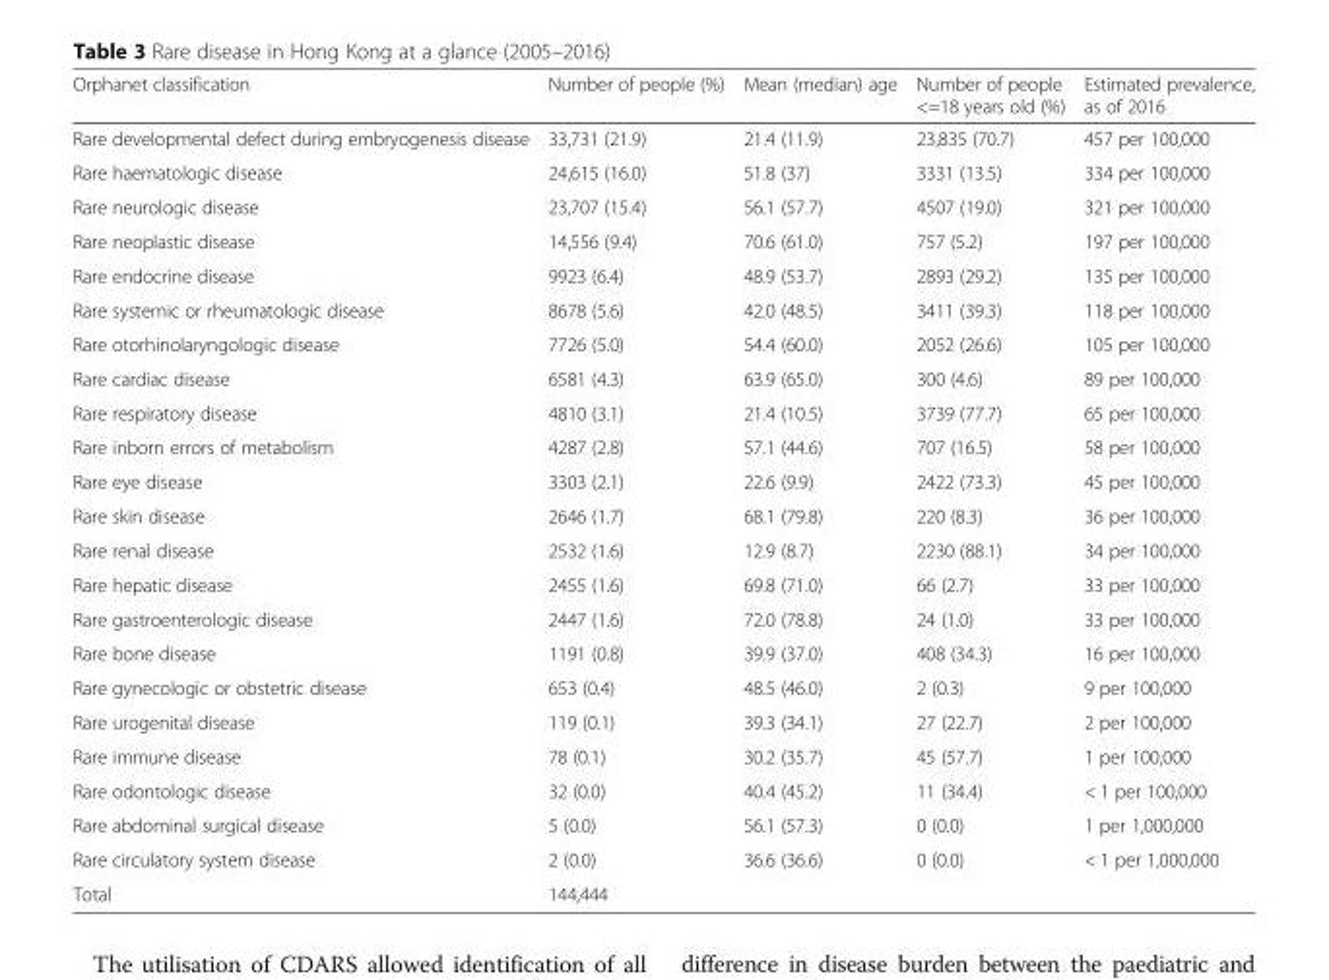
<table><thead><tr><td>Orphanet classification</td><td>Number of people (%)</td><td>Mean (median) age</td><td>Number of people &lt;=18 years old (%)</td><td>Estimated prevalence, as of 2016</td></tr></thead><tbody><tr><td>Rare developmental defect during embryogenesis disease</td><td>33,731 (21.9)</td><td>21.4 (11.9)</td><td>23,835 (70.7)</td><td>457 per 100,000</td></tr><tr><td>Rare haematologic disease</td><td>24,615 (16.0)</td><td>51.8 (37)</td><td>3331 (13.5)</td><td>334 per 100,000</td></tr><tr><td>Rare neurologic disease</td><td>23,707 (15.4)</td><td>56.1 (57.7)</td><td>4507 (19.0)</td><td>321 per 100,000</td></tr><tr><td>Rare neoplastic disease</td><td>14,556 (9.4)</td><td>70.6 (61.0)</td><td>757 (5.2)</td><td>197 per 100,000</td></tr><tr><td>Rare endocrine disease</td><td>9923 (6.4)</td><td>48.9 (53.7)</td><td>2893 (29.2)</td><td>135 per 100,000</td></tr><tr><td>Rare systemic or rheumatologic disease</td><td>8678 (5.6)</td><td>42.0 (48.5)</td><td>3411 (39.3)</td><td>118 per 100,000</td></tr><tr><td>Rare otorhinolaryngologic disease</td><td>7726 (5.0)</td><td>54.4 (60.0)</td><td>2052 (26.6)</td><td>105 per 100,000</td></tr><tr><td>Rare cardiac disease</td><td>6581 (4.3)</td><td>63.9 (65.0)</td><td>300 (4.6)</td><td>89 per 100,000</td></tr><tr><td>Rare respiratory disease</td><td>4810 (3.1)</td><td>21.4 (10.5)</td><td>3739 (77.7)</td><td>65 per 100,000</td></tr><tr><td>Rare inborn errors of metabolism</td><td>4287 (2.8)</td><td>57.1 (44.6)</td><td>707 (16.5)</td><td>58 per 100,000</td></tr><tr><td>Rare eye disease</td><td>3303 (2.1)</td><td>22.6 (9.9)</td><td>2422 (73.3)</td><td>45 per 100,000</td></tr><tr><td>Rare skin disease</td><td>2646 (1.7)</td><td>68.1 (79.8)</td><td>220 (8.3)</td><td>36 per 100,000</td></tr><tr><td>Rare renal disease</td><td>2532 (1.6)</td><td>12.9 (8.7)</td><td>2230 (88.1)</td><td>34 per 100,000</td></tr><tr><td>Rare hepatic disease</td><td>2455 (1.6)</td><td>69.8 (71.0)</td><td>66 (2.7)</td><td>33 per 100,000</td></tr><tr><td>Rare gastroenterologic disease</td><td>2447 (1.6)</td><td>72.0 (78.8)</td><td>24 (1.0)</td><td>33 per 100,000</td></tr><tr><td>Rare bone disease</td><td>1191 (0.8)</td><td>39.9 (37.0)</td><td>408 (34.3)</td><td>16 per 100,000</td></tr><tr><td>Rare gynecologic or obstetric disease</td><td>653 (0.4)</td><td>48.5 (46.0)</td><td>2 (0.3)</td><td>9 per 100,000</td></tr><tr><td>Rare urogenital disease</td><td>119 (0.1)</td><td>39.3 (34.1)</td><td>27 (22.7)</td><td>2 per 100,000</td></tr><tr><td>Rare immune disease</td><td>78 (0.1)</td><td>30.2 (35.7)</td><td>45 (57.7)</td><td>1 per 100,000</td></tr><tr><td>Rare odontologic disease</td><td>32 (0.0)</td><td>40.4 (45.2)</td><td>11 (34.4)</td><td>&lt; 1 per 100,000</td></tr><tr><td>Rare abdominal surgical disease</td><td>5 (0.0)</td><td>56.1 (57.3)</td><td>0 (0.0)</td><td>1 per 1,000,000</td></tr><tr><td>Rare circulatory system disease</td><td>2 (0.0)</td><td>36.6 (36.6)</td><td>0 (0.0)</td><td>&lt; 1 per 1,000,000</td></tr><tr><td>Total</td><td>144,444</td><td></td><td></td><td></td></tr></tbody></table>